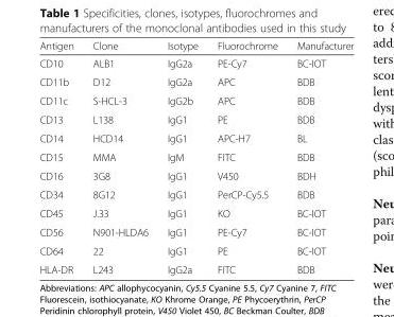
<table><thead><tr><td>Antigen</td><td>Clone</td><td>Isotype</td><td>Fluorochrome</td><td>Manufacturer</td></tr></thead><tbody><tr><td>CD10</td><td>ALB1</td><td>IgG2a</td><td>PE-Cy7</td><td>BC-IOT</td></tr><tr><td>CD11b</td><td>D12</td><td>IgG2a</td><td>APC</td><td>BDB</td></tr><tr><td>CD11c</td><td>S-HCL-3</td><td>IgG2b</td><td>APC</td><td>BDB</td></tr><tr><td>CD13</td><td>L138</td><td>IgG1</td><td>PE</td><td>BDB</td></tr><tr><td>CD14</td><td>HCD14</td><td>IgG1</td><td>APC-H7</td><td>BL</td></tr><tr><td>CD15</td><td>MMA</td><td>IgM</td><td>FITC</td><td>BDB</td></tr><tr><td>CD16</td><td>3G8</td><td>IgG1</td><td>V450</td><td>BDH</td></tr><tr><td>CD34</td><td>8G12</td><td>IgG1</td><td>PerCP-Cy5.5</td><td>BDB</td></tr><tr><td>CD45</td><td>J.33</td><td>IgG1</td><td>KO</td><td>BC-IOT</td></tr><tr><td>CD56</td><td>N901-HLDA6</td><td>IgG1</td><td>PE-Cy7</td><td>BC-IOT</td></tr><tr><td>CD64</td><td>22</td><td>IgG1</td><td>PE</td><td>BC-IOT</td></tr><tr><td>HLA-DR</td><td>L243</td><td>IgG2a</td><td>FITC</td><td>BDB</td></tr></tbody></table>